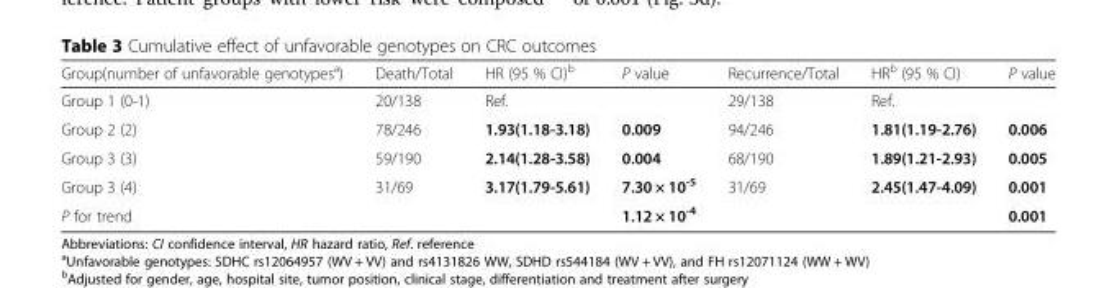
<table><thead><tr><td>Group(number of unfavorable genotypes<sup>a</sup>)</td><td>Death/Total</td><td>HR (95 % CI)<sup>b</sup></td><td>P value</td><td>Recurrence/Total</td><td>HR<sup>b</sup> (95 % CI)</td><td>P value</td></tr></thead><tbody><tr><td>Group 1 (0-1)</td><td>20/138</td><td>Ref.</td><td></td><td>29/138</td><td>Ref.</td><td></td></tr><tr><td>Group 2 (2)</td><td>78/246</td><td>1.93(1.18-3.18)</td><td>0.009</td><td>94/246</td><td>1.81(1.19-2.76)</td><td>0.006</td></tr><tr><td>Group 3 (3)</td><td>59/190</td><td>2.14(1.28-3.58)</td><td>0.004</td><td>68/190</td><td>1.89(1.21-2.93)</td><td>0.005</td></tr><tr><td>Group 3 (4)</td><td>31/69</td><td>3.17(1.79-5.61)</td><td>7.30 × 10<sup>-5</sup></td><td>31/69</td><td>2.45(1.47-4.09)</td><td>0.001</td></tr><tr><td>P for trend</td><td></td><td></td><td>1.12 × 10<sup>-4</sup></td><td></td><td></td><td>0.001</td></tr></tbody></table>